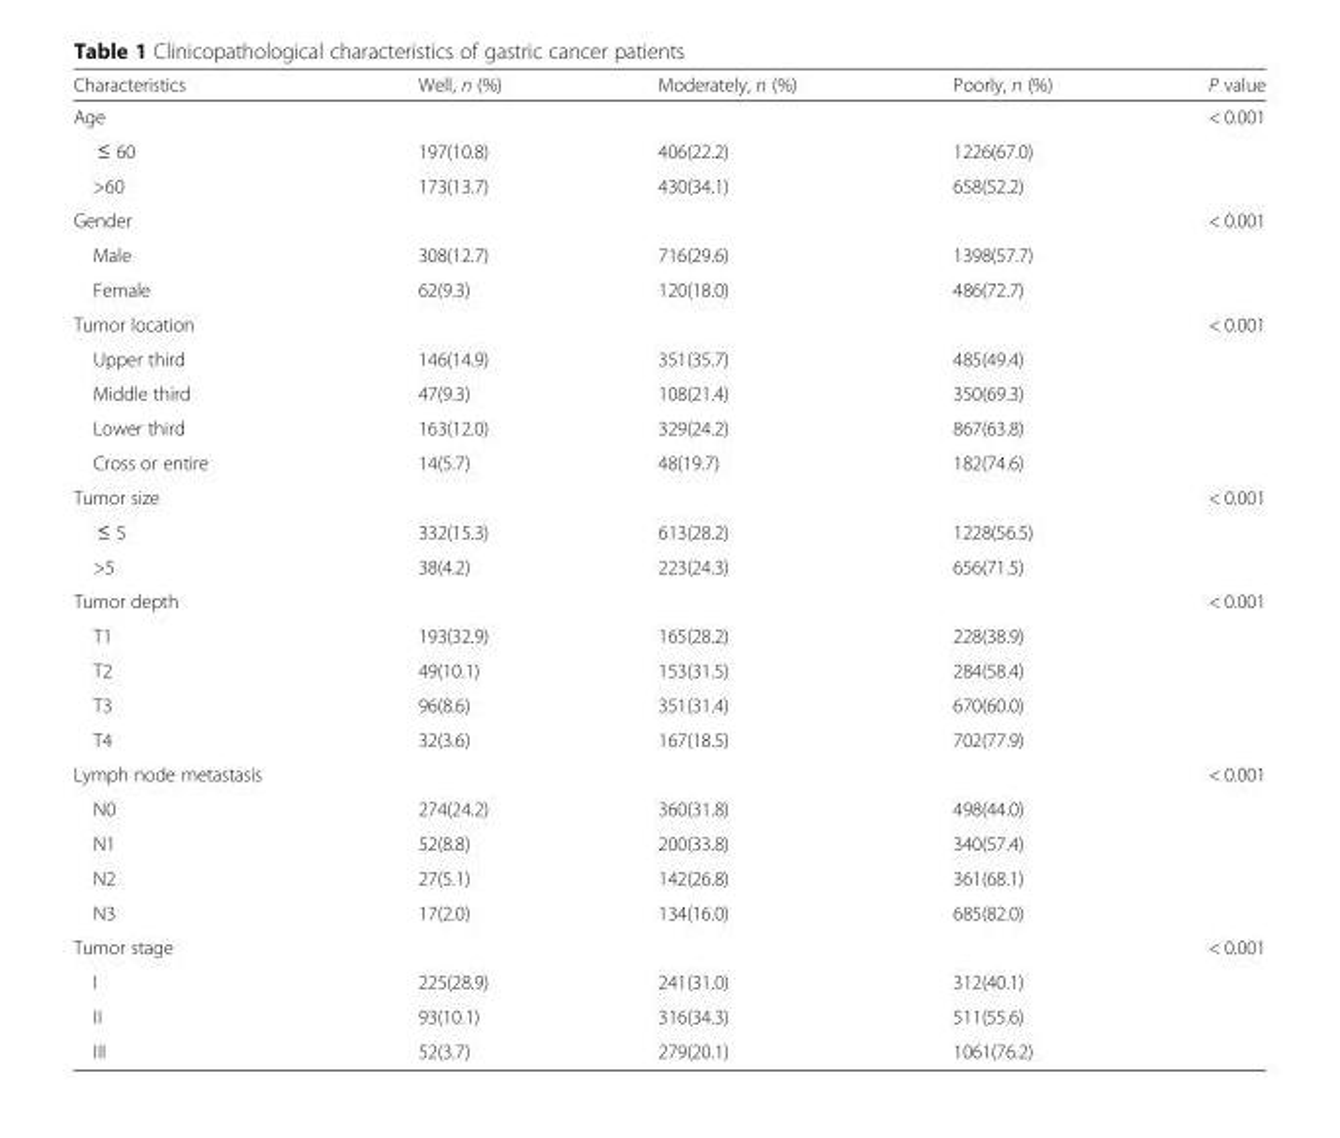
<table><thead><tr><td>Characteristics</td><td>Well, n (%)</td><td>Moderately, n (%)</td><td>Poorly, n (%)</td><td>P value</td></tr></thead><tbody><tr><td>Age</td><td></td><td></td><td></td><td>&lt; 0.001</td></tr><tr><td>≤ 60</td><td>197(10.8)</td><td>406(22.2)</td><td>1226(67.0)</td><td></td></tr><tr><td>&gt;60</td><td>173(13.7)</td><td>430(34.1)</td><td>658(52.2)</td><td></td></tr><tr><td>Gender</td><td></td><td></td><td></td><td>&lt; 0.001</td></tr><tr><td>Male</td><td>308(12.7)</td><td>716(29.6)</td><td>1398(57.7)</td><td></td></tr><tr><td>Female</td><td>62(9.3)</td><td>120(18.0)</td><td>486(72.7)</td><td></td></tr><tr><td>Tumor location</td><td></td><td></td><td></td><td>&lt; 0.001</td></tr><tr><td>Upper third</td><td>146(14.9)</td><td>351(35.7)</td><td>485(49.4)</td><td></td></tr><tr><td>Middle third</td><td>47(9.3)</td><td>108(21.4)</td><td>350(69.3)</td><td></td></tr><tr><td>Lower third</td><td>163(12.0)</td><td>329(24.2)</td><td>867(63.8)</td><td></td></tr><tr><td>Cross or entire</td><td>14(5.7)</td><td>48(19.7)</td><td>182(74.6)</td><td></td></tr><tr><td>Tumor size</td><td></td><td></td><td></td><td>&lt; 0.001</td></tr><tr><td>≤ 5</td><td>332(15.3)</td><td>613(28.2)</td><td>1228(56.5)</td><td></td></tr><tr><td>&gt;5</td><td>38(4.2)</td><td>223(24.3)</td><td>656(71.5)</td><td></td></tr><tr><td>Tumor depth</td><td></td><td></td><td></td><td>&lt; 0.001</td></tr><tr><td>T1</td><td>193(32.9)</td><td>165(28.2)</td><td>228(38.9)</td><td></td></tr><tr><td>T2</td><td>49(10.1)</td><td>153(31.5)</td><td>284(58.4)</td><td></td></tr><tr><td>T3</td><td>96(8.6)</td><td>351(31.4)</td><td>670(60.0)</td><td></td></tr><tr><td>T4</td><td>32(3.6)</td><td>167(18.5)</td><td>702(77.9)</td><td></td></tr><tr><td>Lymph node metastasis</td><td></td><td></td><td></td><td>&lt; 0.001</td></tr><tr><td>N0</td><td>274(24.2)</td><td>360(31.8)</td><td>498(44.0)</td><td></td></tr><tr><td>N1</td><td>52(8.8)</td><td>200(33.8)</td><td>340(57.4)</td><td></td></tr><tr><td>N2</td><td>27(5.1)</td><td>142(26.8)</td><td>361(68.1)</td><td></td></tr><tr><td>N3</td><td>17(2.0)</td><td>134(16.0)</td><td>685(82.0)</td><td></td></tr><tr><td>Tumor stage</td><td></td><td></td><td></td><td>&lt; 0.001</td></tr><tr><td>I</td><td>225(28.9)</td><td>241(31.0)</td><td>312(40.1)</td><td></td></tr><tr><td>II</td><td>93(10.1)</td><td>316(34.3)</td><td>511(55.6)</td><td></td></tr><tr><td>III</td><td>52(3.7)</td><td>279(20.1)</td><td>1061(76.2)</td><td></td></tr></tbody></table>